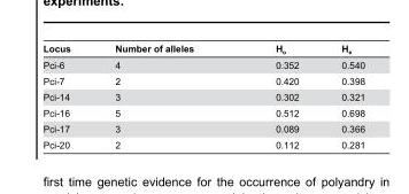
<table><thead><tr><td>Locus</td><td>Number of alleles</td><td>H<sub>o</sub></td><td>H<sub>e</sub></td></tr></thead><tbody><tr><td>Pci-6</td><td>4</td><td>0.352</td><td>0.540</td></tr><tr><td>Pci-7</td><td>2</td><td>0.420</td><td>0.398</td></tr><tr><td>Pci-14</td><td>3</td><td>0.302</td><td>0.321</td></tr><tr><td>Pci-16</td><td>5</td><td>0.512</td><td>0.698</td></tr><tr><td>Pci-17</td><td>3</td><td>0.089</td><td>0.366</td></tr><tr><td>Pci-20</td><td>2</td><td>0.112</td><td>0.281</td></tr></tbody></table>